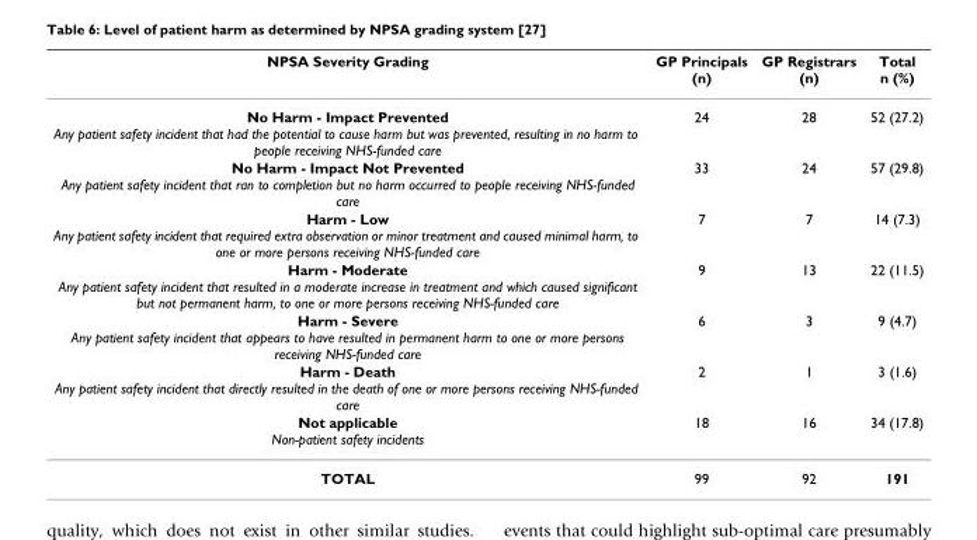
<table><thead><tr><td>NPSA Severity Grading</td><td>GP Principals (n)</td><td>GP Registrars (n)</td><td>Total n (%)</td></tr></thead><tbody><tr><td>No Harm - Impact Prevented Any patient safety incident that had the potential to cause harm but was prevented, resulting in no harm to people receiving NHS-funded care</td><td>24</td><td>28</td><td>52 (27.2)</td></tr><tr><td>No Harm - Impact Not Prevented Any patient safety incident that ran to completion but no harm occurred to people receiving NHS-funded care</td><td>33</td><td>24</td><td>57 (29.8)</td></tr><tr><td>Harm - Low Any patient safety incident that required extra observation or minor treatment and caused minimal harm, to one or more persons receiving NHS-funded care</td><td>7</td><td>7</td><td>14 (7.3)</td></tr><tr><td>Harm - Moderate Any patient safety incident that resulted in a moderate increase in treatment and which caused significant but not permanent harm, to one or more persons receiving NHS-funded care</td><td>9</td><td>13</td><td>22 (11.5)</td></tr><tr><td>Harm - Severe Any patient safety incident that appears to have resulted in permanent harm to one or more persons receiving NHS-funded care</td><td>6</td><td>3</td><td>9 (4.7)</td></tr><tr><td>Harm - Death Any patient safety incident that directly resulted in the death of one or more persons receiving NHS-funded care</td><td>2</td><td>1</td><td>3 (1.6)</td></tr><tr><td>Not applicable Non-patient safety incidents</td><td>18</td><td>16</td><td>34 (17.8)</td></tr><tr><td>TOTAL</td><td>99</td><td>92</td><td>191</td></tr></tbody></table>